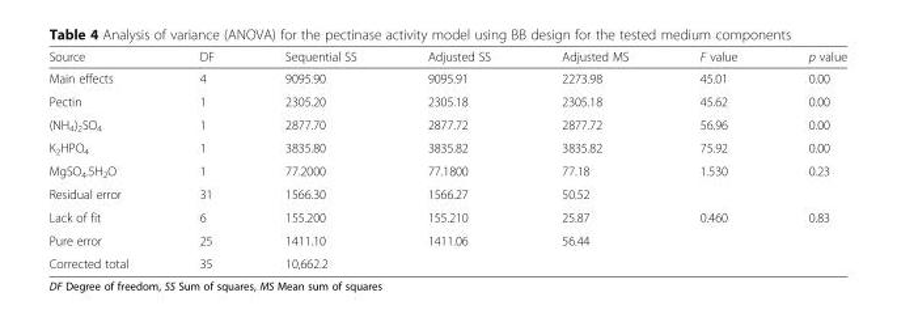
<table><thead><tr><td>Source</td><td>DF</td><td>Sequential SS</td><td>Adjusted SS</td><td>Adjusted MS</td><td>F value</td><td>p value</td></tr></thead><tbody><tr><td>Main effects</td><td>4</td><td>9095.90</td><td>9095.91</td><td>2273.98</td><td>45.01</td><td>0.00</td></tr><tr><td>Pectin</td><td>1</td><td>2305.20</td><td>2305.18</td><td>2305.18</td><td>45.62</td><td>0.00</td></tr><tr><td>(NH<sub>4</sub>)<sub>2</sub>SO<sub>4</sub></td><td>1</td><td>2877.70</td><td>2877.72</td><td>2877.72</td><td>56.96</td><td>0.00</td></tr><tr><td>K<sub>2</sub>HPO<sub>4</sub></td><td>1</td><td>3835.80</td><td>3835.82</td><td>3835.82</td><td>75.92</td><td>0.00</td></tr><tr><td>MgSO<sub>4</sub>.5H<sub>2</sub>O</td><td>1</td><td>77.2000</td><td>77.1800</td><td>77.18</td><td>1.530</td><td>0.23</td></tr><tr><td>Residual error</td><td>31</td><td>1566.30</td><td>1566.27</td><td>50.52</td><td></td><td></td></tr><tr><td>Lack of fit</td><td>6</td><td>155.200</td><td>155.210</td><td>25.87</td><td>0.460</td><td>0.83</td></tr><tr><td>Pure error</td><td>25</td><td>1411.10</td><td>1411.06</td><td>56.44</td><td></td><td></td></tr><tr><td>Corrected total</td><td>35</td><td>10,662.2</td><td></td><td></td><td></td><td></td></tr></tbody></table>